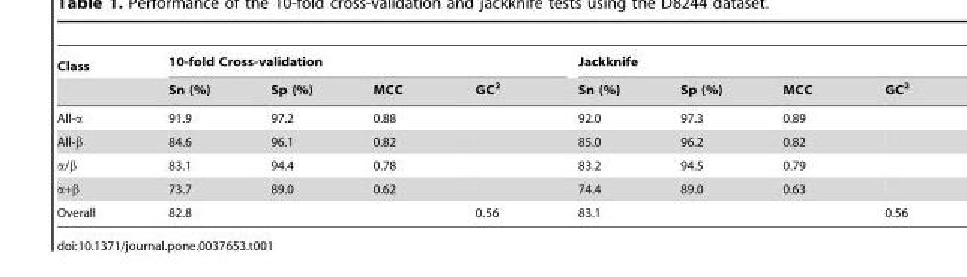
<table><thead><tr><td rowspan="2">Class</td><td colspan="4">10-fold Cross-validation</td><td colspan="4">Jackknife</td></tr><tr><td>Sn (%)</td><td>Sp (%)</td><td>MCC</td><td>GC<sup>2</sup></td><td>Sn (%)</td><td>Sp (%)</td><td>MCC</td><td>GC<sup>2</sup></td></tr></thead><tbody><tr><td>All-α</td><td>91.9</td><td>97.2</td><td>0.88</td><td></td><td>92.0</td><td>97.3</td><td>0.89</td><td></td></tr><tr><td>All-β</td><td>84.6</td><td>96.1</td><td>0.82</td><td></td><td>85.0</td><td>96.2</td><td>0.82</td><td></td></tr><tr><td>α/β</td><td>83.1</td><td>94.4</td><td>0.78</td><td></td><td>83.2</td><td>94.5</td><td>0.79</td><td></td></tr><tr><td>α+β</td><td>73.7</td><td>89.0</td><td>0.62</td><td></td><td>74.4</td><td>89.0</td><td>0.63</td><td></td></tr><tr><td>Overall</td><td>82.8</td><td></td><td></td><td>0.56</td><td>83.1</td><td></td><td></td><td>0.56</td></tr></tbody></table>